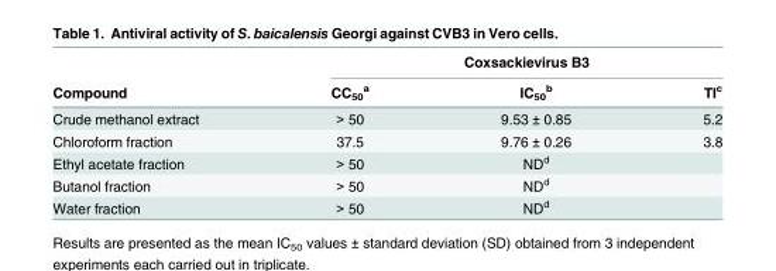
<table><thead><tr><td rowspan="2">Compound</td><td colspan="3">Coxsackievirus B3</td></tr><tr><td>CC<sub>50</sub> <sup>a</sup></td><td>IC<sub>50</sub> <sup>b</sup></td><td>TI<sup>c</sup></td></tr></thead><tbody><tr><td>Crude methanol extract</td><td>&gt; 50</td><td>9.53 ± 0.85</td><td>5.2</td></tr><tr><td>Chloroform fraction</td><td>37.5</td><td>9.76 ± 0.26</td><td>3.8</td></tr><tr><td>Ethyl acetate fraction</td><td>&gt; 50</td><td>ND<sup>d</sup></td><td></td></tr><tr><td>Butanol fraction</td><td>&gt; 50</td><td>ND<sup>d</sup></td><td></td></tr><tr><td>Water fraction</td><td>&gt; 50</td><td>ND<sup>d</sup></td><td></td></tr></tbody></table>